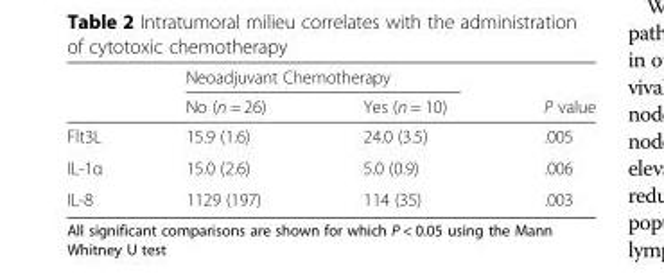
<table><thead><tr><td rowspan="2"></td><td colspan="2">Neoadjuvant Chemotherapy</td><td rowspan="2">P value</td></tr><tr><td>No (n = 26)</td><td>Yes (n = 10)</td></tr></thead><tbody><tr><td>Flt3L</td><td>15.9 (1.6)</td><td>24.0 (3.5)</td><td>.005</td></tr><tr><td>IL-1α</td><td>15.0 (2.6)</td><td>5.0 (0.9)</td><td>.006</td></tr><tr><td>IL-8</td><td>1129 (197)</td><td>114 (35)</td><td>.003</td></tr></tbody></table>